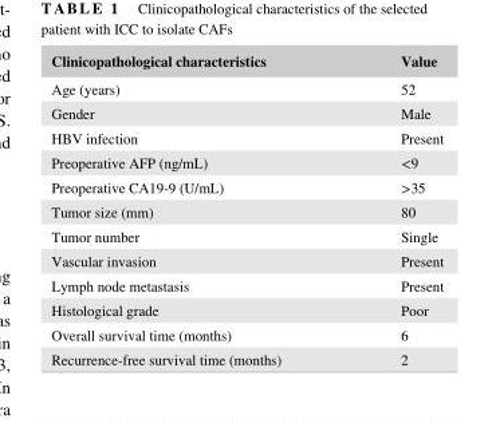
<table><thead><tr><td>Clinicopathological characteristics</td><td>Value</td></tr></thead><tbody><tr><td>Age (years)</td><td>52</td></tr><tr><td>Gender</td><td>Male</td></tr><tr><td>HBV infection</td><td>Present</td></tr><tr><td>Preoperative AFP (ng/mL)</td><td>&lt;9</td></tr><tr><td>Preoperative CA19- 9 (U/mL)</td><td>&gt;35</td></tr><tr><td>Tumor size (mm)</td><td>80</td></tr><tr><td>Tumor number</td><td>Single</td></tr><tr><td>Vascular invasion</td><td>Present</td></tr><tr><td>Lymph node metastasis</td><td>Present</td></tr><tr><td>Histological grade</td><td>Poor</td></tr><tr><td>Overall survival time (months)</td><td>6</td></tr><tr><td>Recurrence- free survival time (months)</td><td>2</td></tr></tbody></table>